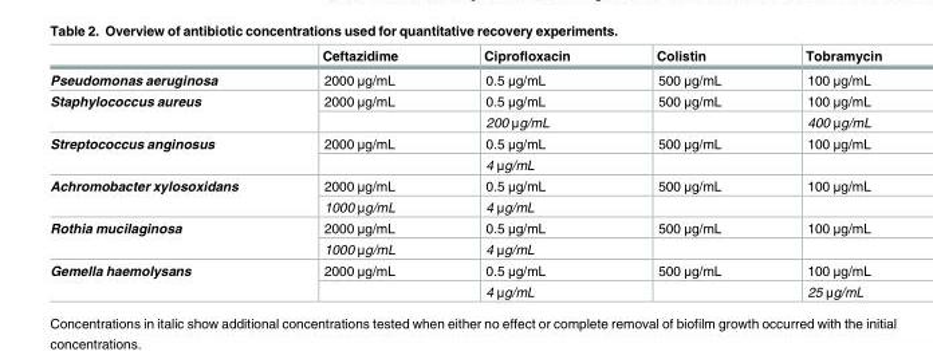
<table><thead><tr><td></td><td>Ceftazidime</td><td>Ciprofloxacin</td><td>Colistin</td><td>Tobramycin</td></tr></thead><tbody><tr><td>Pseudomonas aeruginosa</td><td>2000 μg/mL</td><td>0.5 μg/mL</td><td>500 μg/mL</td><td>100 μg/mL</td></tr><tr><td rowspan="2">Staphylococcus aureus</td><td>2000 μg/mL</td><td>0.5 μg/mL</td><td>500 μg/mL</td><td>100 μg/mL</td></tr><tr><td></td><td>200 μg/mL</td><td></td><td>400 μg/mL</td></tr><tr><td rowspan="2">Streptococcus anginosus</td><td>2000 μg/mL</td><td>0.5 μg/mL</td><td>500 μg/mL</td><td>100 μg/mL</td></tr><tr><td></td><td>4 μg/mL</td><td></td><td></td></tr><tr><td rowspan="2">Achromobacter xylosoxidans</td><td>2000 μg/mL</td><td>0.5 μg/mL</td><td>500 μg/mL</td><td>100 μg/mL</td></tr><tr><td>1000 μg/mL</td><td>4 μg/mL</td><td></td><td></td></tr><tr><td rowspan="2">Rothia mucilaginosa</td><td>2000 μg/mL</td><td>0.5 μg/mL</td><td>500 μg/mL</td><td>100 μg/mL</td></tr><tr><td>1000 μg/mL</td><td>4 μg/mL</td><td></td><td></td></tr><tr><td rowspan="2">Gemella haemolysans</td><td>2000 μg/mL</td><td>0.5 μg/mL</td><td>500 μg/mL</td><td>100 μg/mL</td></tr><tr><td></td><td>4 μg/mL</td><td></td><td>25 μg/mL</td></tr></tbody></table>